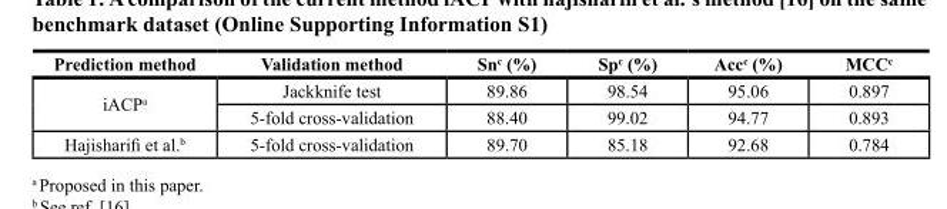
<table><thead><tr><td>Prediction method</td><td>Validation method</td><td>Sn<sup>c</sup> (%)</td><td>Sp<sup>c</sup> (%)</td><td>Acc<sup>c</sup> (%)</td><td>MCC<sup>c</sup></td></tr></thead><tbody><tr><td rowspan="2">iACP<sup>a</sup></td><td>Jackknife test</td><td>89.86</td><td>98.54</td><td>95.06</td><td>0.897</td></tr><tr><td>5-fold cross-validation</td><td>88.40</td><td>99.02</td><td>94.77</td><td>0.893</td></tr><tr><td>Hajisharifi et al.<sup>b</sup></td><td>5-fold cross-validation</td><td>89.70</td><td>85.18</td><td>92.68</td><td>0.784</td></tr></tbody></table>